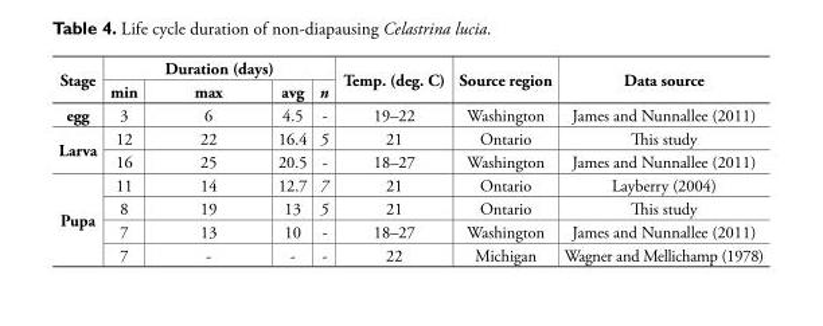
<table><thead><tr><td rowspan="2">Stage</td><td colspan="4">Duration (days)</td><td rowspan="2">Temp. (deg. C)</td><td rowspan="2">Source region</td><td rowspan="2">Data source</td></tr><tr><td>min</td><td>max</td><td>avg</td><td>n</td></tr></thead><tbody><tr><td>egg</td><td>3</td><td>6</td><td>4.5</td><td>-</td><td>19–22</td><td>Washington</td><td>James and Nunnallee (2011)</td></tr><tr><td rowspan="2">Larva</td><td>12</td><td>22</td><td>16.4</td><td>5</td><td>21</td><td>Ontario</td><td>This study</td></tr><tr><td>16</td><td>25</td><td>20.5</td><td>-</td><td>18–27</td><td>Washington</td><td>James and Nunnallee (2011)</td></tr><tr><td rowspan="4">Pupa</td><td>11</td><td>14</td><td>12.7</td><td>7</td><td>21</td><td>Ontario</td><td>Layberry (2004)</td></tr><tr><td>8</td><td>19</td><td>13</td><td>5</td><td>21</td><td>Ontario</td><td>This study</td></tr><tr><td>7</td><td>13</td><td>10</td><td>-</td><td>18–27</td><td>Washington</td><td>James and Nunnallee (2011)</td></tr><tr><td>7</td><td>-</td><td>-</td><td>-</td><td>22</td><td>Michigan</td><td>Wagner and Mellichamp (1978)</td></tr></tbody></table>